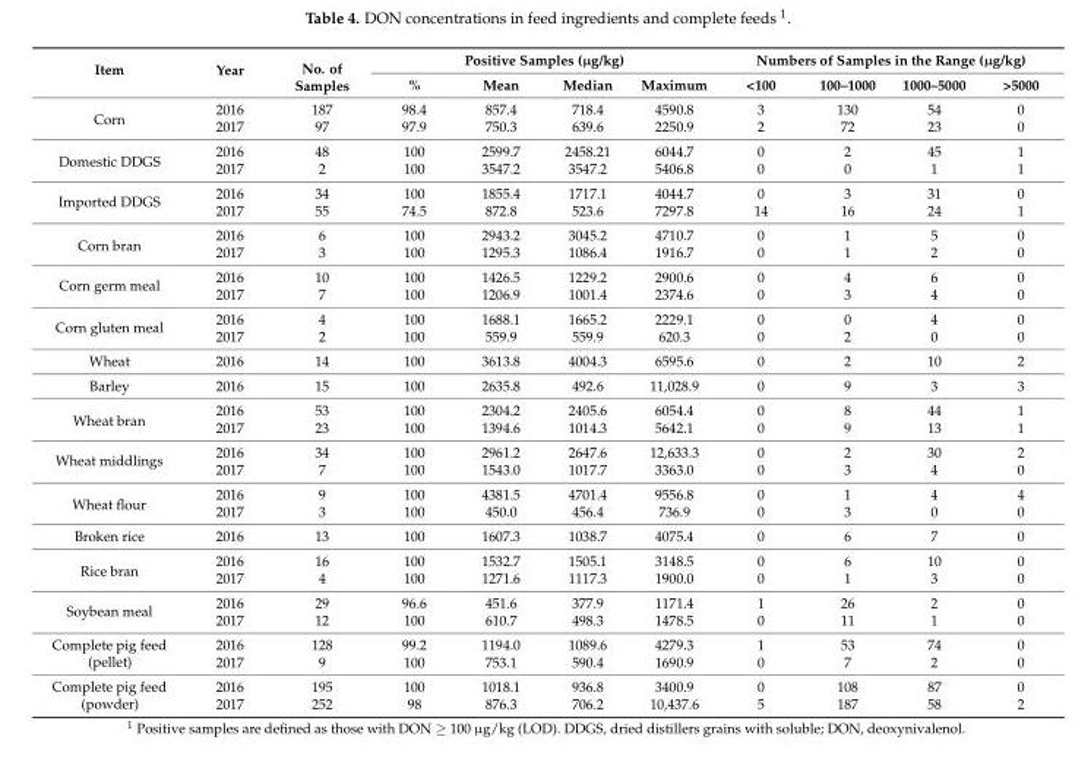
<table><thead><tr><td rowspan="2">Item</td><td rowspan="2">Year</td><td rowspan="2">No. of Samples</td><td colspan="4">Positive Samples (µg/kg)</td><td colspan="4">Numbers of Samples in the Range (µg/kg)</td></tr><tr><td>%</td><td>Mean</td><td>Median</td><td>Maximum</td><td>&lt;100</td><td>100–1000</td><td>1000–5000</td><td>&gt;5000</td></tr></thead><tbody><tr><td rowspan="2">Corn</td><td>2016</td><td>187</td><td>98.4</td><td>857.4</td><td>718.4</td><td>4590.8</td><td>3</td><td>130</td><td>54</td><td>0</td></tr><tr><td>2017</td><td>97</td><td>97.9</td><td>750.3</td><td>639.6</td><td>2250.9</td><td>2</td><td>72</td><td>23</td><td>0</td></tr><tr><td rowspan="2">Domestic DDGS</td><td>2016</td><td>48</td><td>100</td><td>2599.7</td><td>2458.21</td><td>6044.7</td><td>0</td><td>2</td><td>45</td><td>1</td></tr><tr><td>2017</td><td>2</td><td>100</td><td>3547.2</td><td>3547.2</td><td>5406.8</td><td>0</td><td>0</td><td>1</td><td>1</td></tr><tr><td rowspan="2">Imported DDGS</td><td>2016</td><td>34</td><td>100</td><td>1855.4</td><td>1717.1</td><td>4044.7</td><td>0</td><td>3</td><td>31</td><td>0</td></tr><tr><td>2017</td><td>55</td><td>74.5</td><td>872.8</td><td>523.6</td><td>7297.8</td><td>14</td><td>16</td><td>24</td><td>1</td></tr><tr><td rowspan="2">Corn bran</td><td>2016</td><td>6</td><td>100</td><td>2943.2</td><td>3045.2</td><td>4710.7</td><td>0</td><td>1</td><td>5</td><td>0</td></tr><tr><td>2017</td><td>3</td><td>100</td><td>1295.3</td><td>1086.4</td><td>1916.7</td><td>0</td><td>1</td><td>2</td><td>0</td></tr><tr><td rowspan="2">Corn germ meal</td><td>2016</td><td>10</td><td>100</td><td>1426.5</td><td>1229.2</td><td>2900.6</td><td>0</td><td>4</td><td>6</td><td>0</td></tr><tr><td>2017</td><td>7</td><td>100</td><td>1206.9</td><td>1001.4</td><td>2374.6</td><td>0</td><td>3</td><td>4</td><td>0</td></tr><tr><td rowspan="2">Corn gluten meal</td><td>2016</td><td>4</td><td>100</td><td>1688.1</td><td>1665.2</td><td>2229.1</td><td>0</td><td>0</td><td>4</td><td>0</td></tr><tr><td>2017</td><td>2</td><td>100</td><td>559.9</td><td>559.9</td><td>620.3</td><td>0</td><td>2</td><td>0</td><td>0</td></tr><tr><td>Wheat</td><td>2016</td><td>14</td><td>100</td><td>3613.8</td><td>4004.3</td><td>6595.6</td><td>0</td><td>2</td><td>10</td><td>2</td></tr><tr><td>Barley</td><td>2016</td><td>15</td><td>100</td><td>2635.8</td><td>492.6</td><td>11,028.9</td><td>0</td><td>9</td><td>3</td><td>3</td></tr><tr><td rowspan="2">Wheat bran</td><td>2016</td><td>53</td><td>100</td><td>2304.2</td><td>2405.6</td><td>6054.4</td><td>0</td><td>8</td><td>44</td><td>1</td></tr><tr><td>2017</td><td>23</td><td>100</td><td>1394.6</td><td>1014.3</td><td>5642.1</td><td>0</td><td>9</td><td>13</td><td>1</td></tr><tr><td rowspan="2">Wheat middlings</td><td>2016</td><td>34</td><td>100</td><td>2961.2</td><td>2647.6</td><td>12,633.3</td><td>0</td><td>2</td><td>30</td><td>2</td></tr><tr><td>2017</td><td>7</td><td>100</td><td>1543.0</td><td>1017.7</td><td>3363.0</td><td>0</td><td>3</td><td>4</td><td>0</td></tr><tr><td rowspan="2">Wheat flour</td><td>2016</td><td>9</td><td>100</td><td>4381.5</td><td>4701.4</td><td>9556.8</td><td>0</td><td>1</td><td>4</td><td>4</td></tr><tr><td>2017</td><td>3</td><td>100</td><td>450.0</td><td>456.4</td><td>736.9</td><td>0</td><td>3</td><td>0</td><td>0</td></tr><tr><td>Broken rice</td><td>2016</td><td>13</td><td>100</td><td>1607.3</td><td>1038.7</td><td>4075.4</td><td>0</td><td>6</td><td>7</td><td>0</td></tr><tr><td rowspan="2">Rice bran</td><td>2016</td><td>16</td><td>100</td><td>1532.7</td><td>1505.1</td><td>3148.5</td><td>0</td><td>6</td><td>10</td><td>0</td></tr><tr><td>2017</td><td>4</td><td>100</td><td>1271.6</td><td>1117.3</td><td>1900.0</td><td>0</td><td>1</td><td>3</td><td>0</td></tr><tr><td rowspan="2">Soybean meal</td><td>2016</td><td>29</td><td>96.6</td><td>451.6</td><td>377.9</td><td>1171.4</td><td>1</td><td>26</td><td>2</td><td>0</td></tr><tr><td>2017</td><td>12</td><td>100</td><td>610.7</td><td>498.3</td><td>1478.5</td><td>0</td><td>11</td><td>1</td><td>0</td></tr><tr><td rowspan="2">Complete pig feed (pellet)</td><td>2016</td><td>128</td><td>99.2</td><td>1194.0</td><td>1089.6</td><td>4279.3</td><td>1</td><td>53</td><td>74</td><td>0</td></tr><tr><td>2017</td><td>9</td><td>100</td><td>753.1</td><td>590.4</td><td>1690.9</td><td>0</td><td>7</td><td>2</td><td>0</td></tr><tr><td rowspan="2">Complete pig feed (powder)</td><td>2016</td><td>195</td><td>100</td><td>1018.1</td><td>936.8</td><td>3400.9</td><td>0</td><td>108</td><td>87</td><td>0</td></tr><tr><td>2017</td><td>252</td><td>98</td><td>876.3</td><td>706.2</td><td>10,437.6</td><td>5</td><td>187</td><td>58</td><td>2</td></tr></tbody></table>